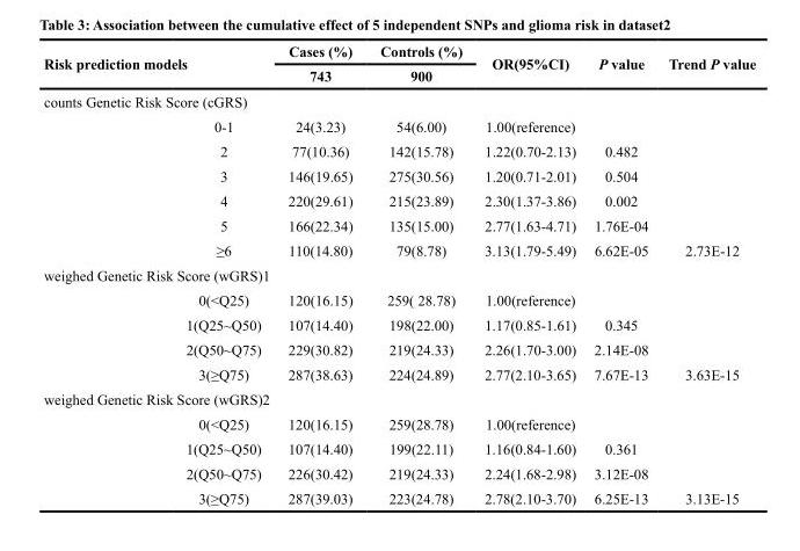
<table><thead><tr><td rowspan="2">Risk prediction models</td><td rowspan="2">Cases (%) 743</td><td rowspan="2">Controls (%) 900</td><td rowspan="2">OR(95%CI)</td><td rowspan="2">P value</td><td rowspan="2">Trend P value</td></tr><tr></tr></thead><tbody><tr><td colspan="6">counts Genetic Risk Score (cGRS)</td></tr><tr><td>0-1</td><td>24(3.23)</td><td>54(6.00)</td><td>1.00(reference)</td><td></td><td></td></tr><tr><td>2</td><td>77(10.36)</td><td>142(15.78)</td><td>1.22(0.70-2.13)</td><td>0.482</td><td></td></tr><tr><td>3</td><td>146(19.65)</td><td>275(30.56)</td><td>1.20(0.71-2.01)</td><td>0.504</td><td></td></tr><tr><td>4</td><td>220(29.61)</td><td>215(23.89)</td><td>2.30(1.37-3.86)</td><td>0.002</td><td></td></tr><tr><td>5</td><td>166(22.34)</td><td>135(15.00)</td><td>2.77(1.63-4.71)</td><td>1.76E-04</td><td></td></tr><tr><td>≥6</td><td>110(14.80)</td><td>79(8.78)</td><td>3.13(1.79-5.49)</td><td>6.62E-05</td><td>2.73E-12</td></tr><tr><td colspan="6">weighed Genetic Risk Score (wGRS)1</td></tr><tr><td>0(&lt;Q25)</td><td>120(16.15)</td><td>259( 28.78)</td><td>1.00(reference)</td><td></td><td></td></tr><tr><td>1(Q25~Q50)</td><td>107(14.40)</td><td>198(22.00)</td><td>1.17(0.85-1.61)</td><td>0.345</td><td></td></tr><tr><td>2(Q50~Q75)</td><td>229(30.82)</td><td>219(24.33)</td><td>2.26(1.70-3.00)</td><td>2.14E-08</td><td></td></tr><tr><td>3(≥Q75)</td><td>287(38.63)</td><td>224(24.89)</td><td>2.77(2.10-3.65)</td><td>7.67E-13</td><td>3.63E-15</td></tr><tr><td colspan="6">weighed Genetic Risk Score (wGRS)2</td></tr><tr><td>0(&lt;Q25)</td><td>120(16.15)</td><td>259(28.78)</td><td>1.00(reference)</td><td></td><td></td></tr><tr><td>1(Q25~Q50)</td><td>107(14.40)</td><td>199(22.11)</td><td>1.16(0.84-1.60)</td><td>0.361</td><td></td></tr><tr><td>2(Q50~Q75)</td><td>226(30.42)</td><td>219(24.33)</td><td>2.24(1.68-2.98)</td><td>3.12E-08</td><td></td></tr><tr><td>3(≥Q75)</td><td>287(39.03)</td><td>223(24.78)</td><td>2.78(2.10-3.70)</td><td>6.25E-13</td><td>3.13E-15</td></tr></tbody></table>